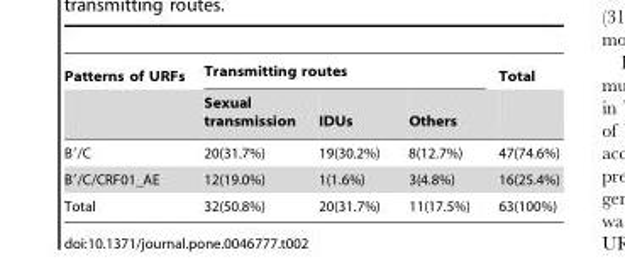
<table><thead><tr><td rowspan="2">Patterns of URFs</td><td colspan="3">Transmitting routes</td><td rowspan="2">Total</td></tr><tr><td>Sexual transmission</td><td>IDUs</td><td>Others</td></tr></thead><tbody><tr><td>B′/C</td><td>20(31.7%)</td><td>19(30.2%)</td><td>8(12.7%)</td><td>47(74.6%)</td></tr><tr><td>B′/C/CRF01_AE</td><td>12(19.0%)</td><td>1(1.6%)</td><td>3(4.8%)</td><td>16(25.4%)</td></tr><tr><td>Total</td><td>32(50.8%)</td><td>20(31.7%)</td><td>11(17.5%)</td><td>63(100%)</td></tr></tbody></table>